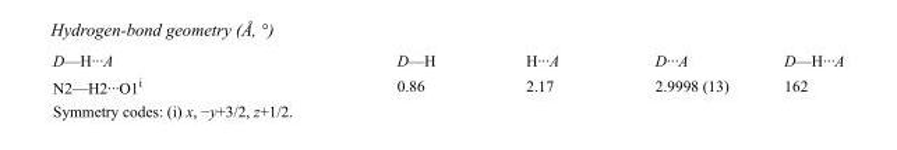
<table><tbody><tr><td>D—H···A</td><td>D—H</td><td>H···A</td><td>D···A</td><td>D—H···A</td></tr><tr><td>N2—H2···O1<sup>i</sup></td><td>0.86</td><td>2.17</td><td>2.9998 (13)</td><td>162</td></tr></tbody></table>